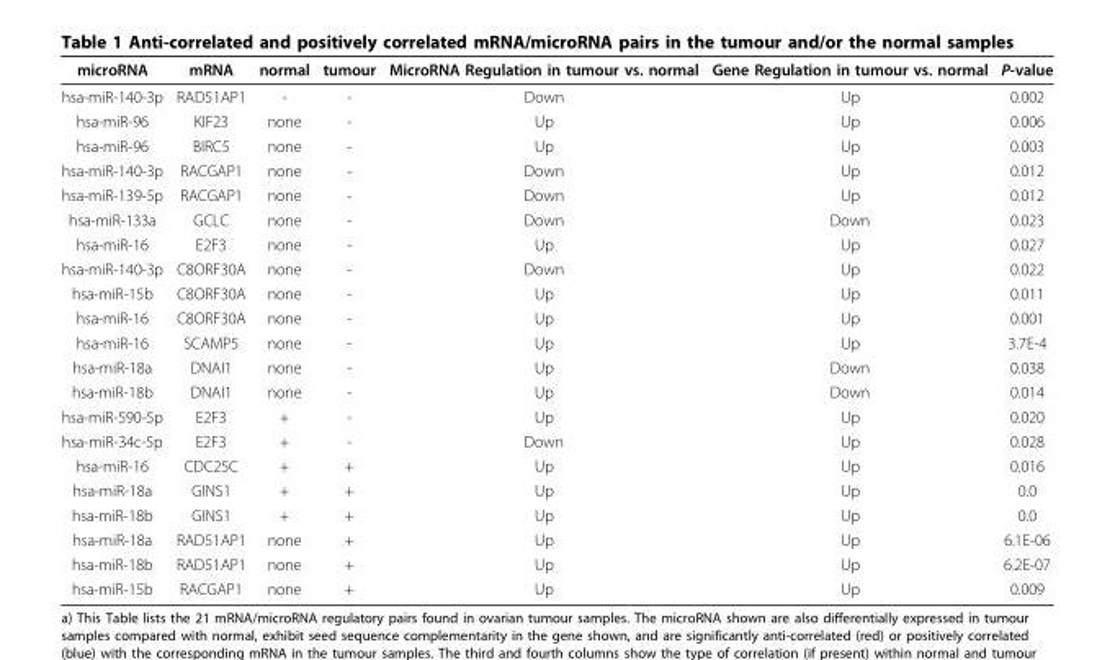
<table><thead><tr><td>microRNA</td><td>mRNA</td><td>normal</td><td>tumour</td><td>MicroRNA Regulation in tumour vs. normal</td><td>Gene Regulation in tumour vs. normal</td><td>P-value</td></tr></thead><tbody><tr><td>hsa-miR-140-3p</td><td>RAD51AP1</td><td>-</td><td>-</td><td>Down</td><td>Up</td><td>0.002</td></tr><tr><td>hsa-miR-96</td><td>KIF23</td><td>none</td><td>-</td><td>Up</td><td>Up</td><td>0.006</td></tr><tr><td>hsa-miR-96</td><td>BIRC5</td><td>none</td><td>-</td><td>Up</td><td>Up</td><td>0.003</td></tr><tr><td>hsa-miR-140-3p</td><td>RACGAP1</td><td>none</td><td>-</td><td>Down</td><td>Up</td><td>0.012</td></tr><tr><td>hsa-miR-139-5p</td><td>RACGAP1</td><td>none</td><td>-</td><td>Down</td><td>Up</td><td>0.012</td></tr><tr><td>hsa-miR-133a</td><td>GCLC</td><td>none</td><td>-</td><td>Down</td><td>Down</td><td>0.023</td></tr><tr><td>hsa-miR-16</td><td>E2F3</td><td>none</td><td>-</td><td>Up</td><td>Up</td><td>0.027</td></tr><tr><td>hsa-miR-140-3p</td><td>C8ORF30A</td><td>none</td><td>-</td><td>Down</td><td>Up</td><td>0.022</td></tr><tr><td>hsa-miR-15b</td><td>C8ORF30A</td><td>none</td><td>-</td><td>Up</td><td>Up</td><td>0.011</td></tr><tr><td>hsa-miR-16</td><td>C8ORF30A</td><td>none</td><td>-</td><td>Up</td><td>Up</td><td>0.001</td></tr><tr><td>hsa-miR-16</td><td>SCAMP5</td><td>none</td><td>-</td><td>Up</td><td>Up</td><td>3.7E-4</td></tr><tr><td>hsa-miR-18a</td><td>DNAI1</td><td>none</td><td>-</td><td>Up</td><td>Down</td><td>0.038</td></tr><tr><td>hsa-miR-18b</td><td>DNAI1</td><td>none</td><td>-</td><td>Up</td><td>Down</td><td>0.014</td></tr><tr><td>hsa-miR-590-5p</td><td>E2F3</td><td>+</td><td>-</td><td>Up</td><td>Up</td><td>0.020</td></tr><tr><td>hsa-miR-34c-5p</td><td>E2F3</td><td>+</td><td>-</td><td>Down</td><td>Up</td><td>0.028</td></tr><tr><td>hsa-miR-16</td><td>CDC25C</td><td>+</td><td>+</td><td>Up</td><td>Up</td><td>0.016</td></tr><tr><td>hsa-miR-18a</td><td>GINS1</td><td>+</td><td>+</td><td>Up</td><td>Up</td><td>0.0</td></tr><tr><td>hsa-miR-18b</td><td>GINS1</td><td>+</td><td>+</td><td>Up</td><td>Up</td><td>0.0</td></tr><tr><td>hsa-miR-18a</td><td>RAD51AP1</td><td>none</td><td>+</td><td>Up</td><td>Up</td><td>6.1E-06</td></tr><tr><td>hsa-miR-18b</td><td>RAD51AP1</td><td>none</td><td>+</td><td>Up</td><td>Up</td><td>6.2E-07</td></tr><tr><td>hsa-miR-15b</td><td>RACGAP1</td><td>none</td><td>+</td><td>Up</td><td>Up</td><td>0.009</td></tr></tbody></table>